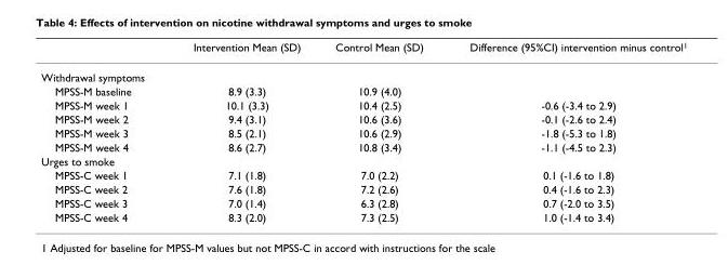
<table><thead><tr><td></td><td>Intervention Mean (SD)</td><td>Control Mean (SD)</td><td>Difference (95%CI) intervention minus control<sup>1</sup></td></tr></thead><tbody><tr><td colspan="4">Withdrawal symptoms</td></tr><tr><td>MPSS-M baseline</td><td>8.9 (3.3)</td><td>10.9 (4.0)</td><td></td></tr><tr><td>MPSS-M week 1</td><td>10.1 (3.3)</td><td>10.4 (2.5)</td><td>-0.6 (-3.4 to 2.9)</td></tr><tr><td>MPSS-M week 2</td><td>9.4 (3.1)</td><td>10.6 (3.6)</td><td>-0.1 (-2.6 to 2.4)</td></tr><tr><td>MPSS-M week 3</td><td>8.5 (2.1)</td><td>10.6 (2.9)</td><td>-1.8 (-5.3 to 1.8)</td></tr><tr><td>MPSS-M week 4</td><td>8.6 (2.7)</td><td>10.8 (3.4)</td><td>-1.1 (-4.5 to 2.3)</td></tr><tr><td colspan="4">Urges to smoke</td></tr><tr><td>MPSS-C week 1</td><td>7.1 (1.8)</td><td>7.0 (2.2)</td><td>0.1 (-1.6 to 1.8)</td></tr><tr><td>MPSS-C week 2</td><td>7.6 (1.8)</td><td>7.2 (2.6)</td><td>0.4 (-1.6 to 2.3)</td></tr><tr><td>MPSS-C week 3</td><td>7.0 (1.4)</td><td>6.3 (2.8)</td><td>0.7 (-2.0 to 3.5)</td></tr><tr><td>MPSS-C week 4</td><td>8.3 (2.0)</td><td>7.3 (2.5)</td><td>1.0 (-1.4 to 3.4)</td></tr></tbody></table>